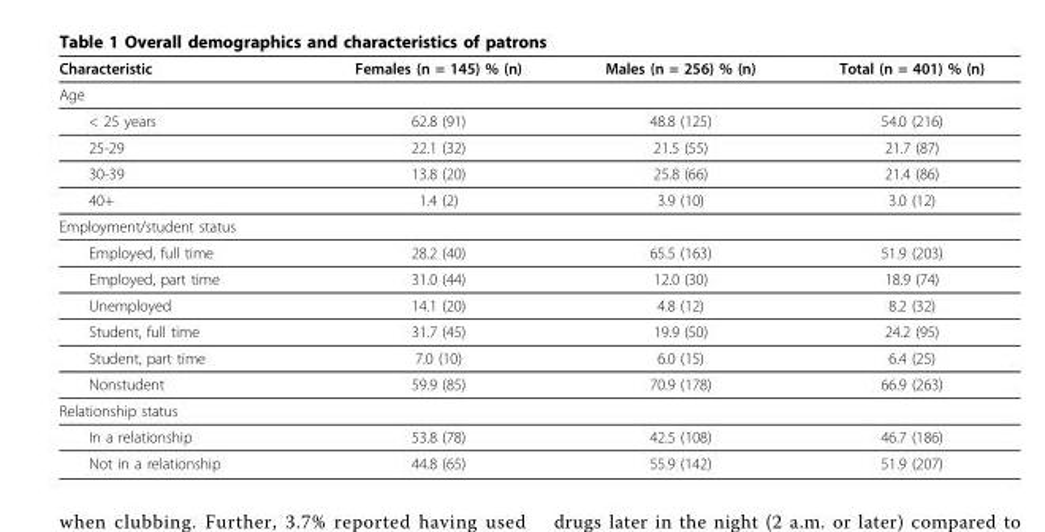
<table><thead><tr><td>Characteristic</td><td>Females (n = 145) % (n)</td><td>Males (n = 256) % (n)</td><td>Total (n = 401) % (n)</td></tr></thead><tbody><tr><td colspan="4">Age</td></tr><tr><td>&lt; 25 years</td><td>62.8 (91)</td><td>48.8 (125)</td><td>54.0 (216)</td></tr><tr><td>25-29</td><td>22.1 (32)</td><td>21.5 (55)</td><td>21.7 (87)</td></tr><tr><td>30-39</td><td>13.8 (20)</td><td>25.8 (66)</td><td>21.4 (86)</td></tr><tr><td>40+</td><td>1.4 (2)</td><td>3.9 (10)</td><td>3.0 (12)</td></tr><tr><td colspan="4">Employment/student status</td></tr><tr><td>Employed, full time</td><td>28.2 (40)</td><td>65.5 (163)</td><td>51.9 (203)</td></tr><tr><td>Employed, part time</td><td>31.0 (44)</td><td>12.0 (30)</td><td>18.9 (74)</td></tr><tr><td>Unemployed</td><td>14.1 (20)</td><td>4.8 (12)</td><td>8.2 (32)</td></tr><tr><td>Student, full time</td><td>31.7 (45)</td><td>19.9 (50)</td><td>24.2 (95)</td></tr><tr><td>Student, part time</td><td>7.0 (10)</td><td>6.0 (15)</td><td>6.4 (25)</td></tr><tr><td>Nonstudent</td><td>59.9 (85)</td><td>70.9 (178)</td><td>66.9 (263)</td></tr><tr><td colspan="4">Relationship status</td></tr><tr><td>In a relationship</td><td>53.8 (78)</td><td>42.5 (108)</td><td>46.7 (186)</td></tr><tr><td>Not in a relationship</td><td>44.8 (65)</td><td>55.9 (142)</td><td>51.9 (207)</td></tr></tbody></table>